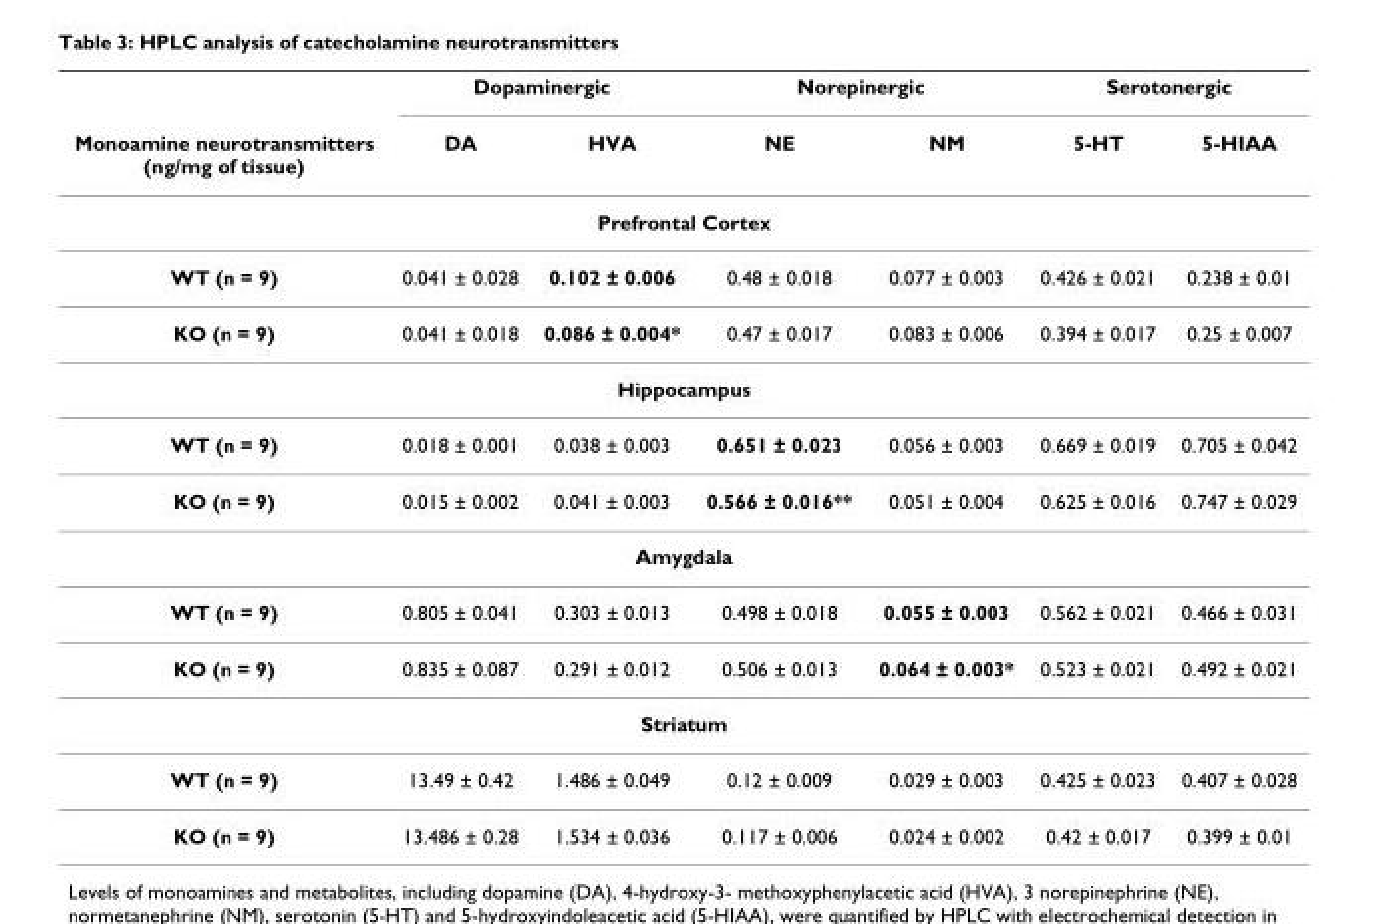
<table><thead><tr><td rowspan="2">Monoamine neurotransmitters (ng/mg of tissue)</td><td colspan="2">Dopaminergic</td><td colspan="2">Norepinergic</td><td colspan="2">Serotonergic</td></tr><tr><td>DA</td><td>HVA</td><td>NE</td><td>NM</td><td>5-HT</td><td>5-HIAA</td></tr></thead><tbody><tr><td colspan="7">Prefrontal Cortex</td></tr><tr><td>WT (n = 9)</td><td>0.041 ± 0.028</td><td>0.102 ± 0.006</td><td>0.48 ± 0.018</td><td>0.077 ± 0.003</td><td>0.426 ± 0.021</td><td>0.238 ± 0.01</td></tr><tr><td>KO (n = 9)</td><td>0.041 ± 0.018</td><td>0.086 ± 0.004*</td><td>0.47 ± 0.017</td><td>0.083 ± 0.006</td><td>0.394 ± 0.017</td><td>0.25 ± 0.007</td></tr><tr><td colspan="7">Hippocampus</td></tr><tr><td>WT (n = 9)</td><td>0.018 ± 0.001</td><td>0.038 ± 0.003</td><td>0.651 ± 0.023</td><td>0.056 ± 0.003</td><td>0.669 ± 0.019</td><td>0.705 ± 0.042</td></tr><tr><td>KO (n = 9)</td><td>0.015 ± 0.002</td><td>0.041 ± 0.003</td><td>0.566 ± 0.016**</td><td>0.051 ± 0.004</td><td>0.625 ± 0.016</td><td>0.747 ± 0.029</td></tr><tr><td colspan="7">Amygdala</td></tr><tr><td>WT (n = 9)</td><td>0.805 ± 0.041</td><td>0.303 ± 0.013</td><td>0.498 ± 0.018</td><td>0.055 ± 0.003</td><td>0.562 ± 0.021</td><td>0.466 ± 0.031</td></tr><tr><td>KO (n = 9)</td><td>0.835 ± 0.087</td><td>0.291 ± 0.012</td><td>0.506 ± 0.013</td><td>0.064 ± 0.003*</td><td>0.523 ± 0.021</td><td>0.492 ± 0.021</td></tr><tr><td colspan="7">Striatum</td></tr><tr><td>WT (n = 9)</td><td>13.49 ± 0.42</td><td>1.486 ± 0.049</td><td>0.12 ± 0.009</td><td>0.029 ± 0.003</td><td>0.425 ± 0.023</td><td>0.407 ± 0.028</td></tr><tr><td>KO (n = 9)</td><td>13.486 ± 0.28</td><td>1.534 ± 0.036</td><td>0.117 ± 0.006</td><td>0.024 ± 0.002</td><td>0.42 ± 0.017</td><td>0.399 ± 0.01</td></tr></tbody></table>